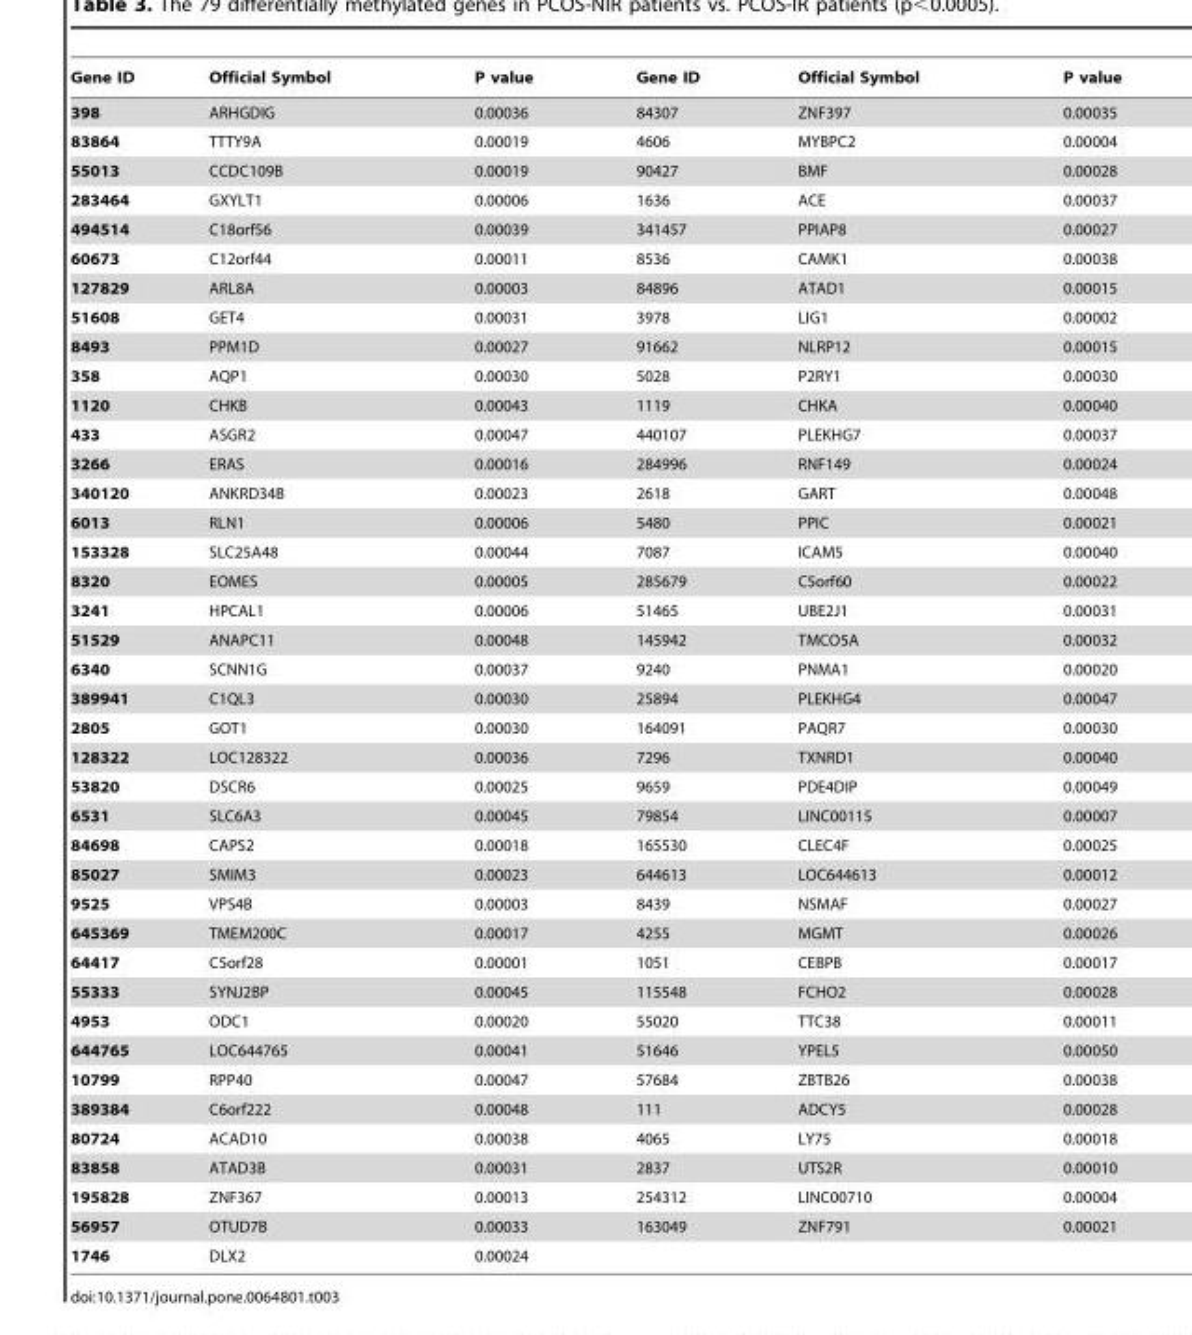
<table><thead><tr><td>Gene ID</td><td>Official Symbol</td><td>P value</td><td>Gene ID</td><td>Official Symbol</td><td>P value</td></tr></thead><tbody><tr><td>398</td><td>ARHGDIG</td><td>0.00036</td><td>84307</td><td>ZNF397</td><td>0.00035</td></tr><tr><td>83864</td><td>TTTY9A</td><td>0.00019</td><td>4606</td><td>MYBPC2</td><td>0.00004</td></tr><tr><td>55013</td><td>CCDC109B</td><td>0.00019</td><td>90427</td><td>BMF</td><td>0.00028</td></tr><tr><td>283464</td><td>GXYLT1</td><td>0.00006</td><td>1636</td><td>ACE</td><td>0.00037</td></tr><tr><td>494514</td><td>C18orf56</td><td>0.00039</td><td>341457</td><td>PPIAP8</td><td>0.00027</td></tr><tr><td>60673</td><td>C12orf44</td><td>0.00011</td><td>8536</td><td>CAMK1</td><td>0.00038</td></tr><tr><td>127829</td><td>ARL8A</td><td>0.00003</td><td>84896</td><td>ATAD1</td><td>0.00015</td></tr><tr><td>51608</td><td>GET4</td><td>0.00031</td><td>3978</td><td>LIG1</td><td>0.00002</td></tr><tr><td>8493</td><td>PPM1D</td><td>0.00027</td><td>91662</td><td>NLRP12</td><td>0.00015</td></tr><tr><td>358</td><td>AQP1</td><td>0.00030</td><td>5028</td><td>P2RY1</td><td>0.00030</td></tr><tr><td>1120</td><td>CHKB</td><td>0.00043</td><td>1119</td><td>CHKA</td><td>0.00040</td></tr><tr><td>433</td><td>ASGR2</td><td>0.00047</td><td>440107</td><td>PLEKHG7</td><td>0.00037</td></tr><tr><td>3266</td><td>ERAS</td><td>0.00016</td><td>284996</td><td>RNF149</td><td>0.00024</td></tr><tr><td>340120</td><td>ANKRD34B</td><td>0.00023</td><td>2618</td><td>GART</td><td>0.00048</td></tr><tr><td>6013</td><td>RLN1</td><td>0.00006</td><td>5480</td><td>PPIC</td><td>0.00021</td></tr><tr><td>153328</td><td>SLC25A48</td><td>0.00044</td><td>7087</td><td>ICAM5</td><td>0.00040</td></tr><tr><td>8320</td><td>EOMES</td><td>0.00005</td><td>285679</td><td>C5orf60</td><td>0.00022</td></tr><tr><td>3241</td><td>HPCAL1</td><td>0.00006</td><td>51465</td><td>UBE2J1</td><td>0.00031</td></tr><tr><td>51529</td><td>ANAPC11</td><td>0.00048</td><td>145942</td><td>TMCO5A</td><td>0.00032</td></tr><tr><td>6340</td><td>SCNN1G</td><td>0.00037</td><td>9240</td><td>PNMA1</td><td>0.00020</td></tr><tr><td>389941</td><td>C1QL3</td><td>0.00030</td><td>25894</td><td>PLEKHG4</td><td>0.00047</td></tr><tr><td>2805</td><td>GOT1</td><td>0.00030</td><td>164091</td><td>PAQR7</td><td>0.00030</td></tr><tr><td>128322</td><td>LOC128322</td><td>0.00036</td><td>7296</td><td>TXNRD1</td><td>0.00040</td></tr><tr><td>53820</td><td>DSCR6</td><td>0.00025</td><td>9659</td><td>PDE4DIP</td><td>0.00049</td></tr><tr><td>6531</td><td>SLC6A3</td><td>0.00045</td><td>79854</td><td>LINC00115</td><td>0.00007</td></tr><tr><td>84698</td><td>CAPS2</td><td>0.00018</td><td>165530</td><td>CLEC4F</td><td>0.00025</td></tr><tr><td>85027</td><td>SMIM3</td><td>0.00023</td><td>644613</td><td>LOC644613</td><td>0.00012</td></tr><tr><td>9525</td><td>VPS4B</td><td>0.00003</td><td>8439</td><td>NSMAF</td><td>0.00027</td></tr><tr><td>645369</td><td>TMEM200C</td><td>0.00017</td><td>4255</td><td>MGMT</td><td>0.00026</td></tr><tr><td>64417</td><td>C5orf28</td><td>0.00001</td><td>1051</td><td>CEBPB</td><td>0.00017</td></tr><tr><td>55333</td><td>SYNJ2BP</td><td>0.00045</td><td>115548</td><td>FCHO2</td><td>0.00028</td></tr><tr><td>4953</td><td>ODC1</td><td>0.00020</td><td>55020</td><td>TTC38</td><td>0.00011</td></tr><tr><td>644765</td><td>LOC644765</td><td>0.00041</td><td>51646</td><td>YPEL5</td><td>0.00050</td></tr><tr><td>10799</td><td>RPP40</td><td>0.00047</td><td>57684</td><td>ZBTB26</td><td>0.00038</td></tr><tr><td>389384</td><td>C6orf222</td><td>0.00048</td><td>111</td><td>ADCY5</td><td>0.00028</td></tr><tr><td>80724</td><td>ACAD10</td><td>0.00038</td><td>4065</td><td>LY75</td><td>0.00018</td></tr><tr><td>83858</td><td>ATAD3B</td><td>0.00031</td><td>2837</td><td>UTS2R</td><td>0.00010</td></tr><tr><td>195828</td><td>ZNF367</td><td>0.00013</td><td>254312</td><td>LINC00710</td><td>0.00004</td></tr><tr><td>56957</td><td>OTUD7B</td><td>0.00033</td><td>163049</td><td>ZNF791</td><td>0.00021</td></tr><tr><td>1746</td><td>DLX2</td><td>0.00024</td><td></td><td></td><td></td></tr></tbody></table>